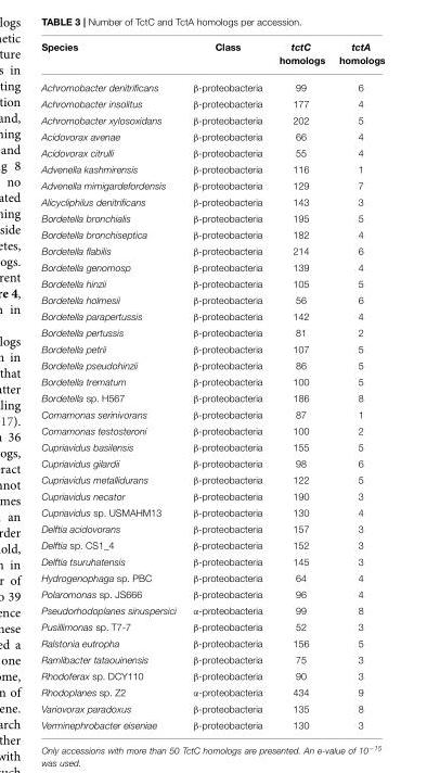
<table><thead><tr><td>Species</td><td>Class</td><td>tctC homologs</td><td>tctA homologs</td></tr></thead><tbody><tr><td>Achromobacter denitrificans</td><td>β-proteobacteria</td><td>99</td><td>6</td></tr><tr><td>Achromobacter insolitus</td><td>β-proteobacteria</td><td>177</td><td>4</td></tr><tr><td>Achromobacter xylosoxidans</td><td>β-proteobacteria</td><td>202</td><td>5</td></tr><tr><td>Acidovorax avenae</td><td>β-proteobacteria</td><td>66</td><td>4</td></tr><tr><td>Acidovorax citrulli</td><td>β-proteobacteria</td><td>55</td><td>4</td></tr><tr><td>Advenella kashmirensis</td><td>β-proteobacteria</td><td>116</td><td>1</td></tr><tr><td>Advenella mimigardefordensis</td><td>β-proteobacteria</td><td>129</td><td>7</td></tr><tr><td>Alicycliphilus denitrificans</td><td>β-proteobacteria</td><td>143</td><td>3</td></tr><tr><td>Bordetella bronchialis</td><td>β-proteobacteria</td><td>195</td><td>5</td></tr><tr><td>Bordetella bronchiseptica</td><td>β-proteobacteria</td><td>182</td><td>4</td></tr><tr><td>Bordetella flabilis</td><td>β-proteobacteria</td><td>214</td><td>6</td></tr><tr><td>Bordetella genomosp</td><td>β-proteobacteria</td><td>139</td><td>4</td></tr><tr><td>Bordetella hinzii</td><td>β-proteobacteria</td><td>105</td><td>5</td></tr><tr><td>Bordetella holmesii</td><td>β-proteobacteria</td><td>56</td><td>6</td></tr><tr><td>Bordetella parapertussis</td><td>β-proteobacteria</td><td>142</td><td>4</td></tr><tr><td>Bordetella pertussis</td><td>β-proteobacteria</td><td>81</td><td>2</td></tr><tr><td>Bordetella petrii</td><td>β-proteobacteria</td><td>107</td><td>5</td></tr><tr><td>Bordetella pseudohinzii</td><td>β-proteobacteria</td><td>86</td><td>5</td></tr><tr><td>Bordetella trematum</td><td>β-proteobacteria</td><td>100</td><td>5</td></tr><tr><td>Bordetella sp. H567</td><td>β-proteobacteria</td><td>186</td><td>8</td></tr><tr><td>Comamonas serinivorans</td><td>β-proteobacteria</td><td>87</td><td>1</td></tr><tr><td>Comamonas testosteroni</td><td>β-proteobacteria</td><td>100</td><td>2</td></tr><tr><td>Cupriavidus basilensis</td><td>β-proteobacteria</td><td>155</td><td>5</td></tr><tr><td>Cupriavidus gilardii</td><td>β-proteobacteria</td><td>98</td><td>6</td></tr><tr><td>Cupriavidus metallidurans</td><td>β-proteobacteria</td><td>122</td><td>5</td></tr><tr><td>Cupriavidus necator</td><td>β-proteobacteria</td><td>190</td><td>3</td></tr><tr><td>Cupriavidus sp. USMAHM13</td><td>β-proteobacteria</td><td>130</td><td>4</td></tr><tr><td>Delftia acidovorans</td><td>β-proteobacteria</td><td>157</td><td>3</td></tr><tr><td>Delftia sp. CS1_4</td><td>β-proteobacteria</td><td>152</td><td>3</td></tr><tr><td>Delftia tsuruhatensis</td><td>β-proteobacteria</td><td>145</td><td>3</td></tr><tr><td>Hydrogenophaga sp. PBC</td><td>β-proteobacteria</td><td>64</td><td>4</td></tr><tr><td>Polaromonas sp. JS666</td><td>β-proteobacteria</td><td>96</td><td>4</td></tr><tr><td>Pseudorhodoplanes sinuspersici</td><td>α-proteobacteria</td><td>99</td><td>8</td></tr><tr><td>Pusillimonas sp. T7-7</td><td>β-proteobacteria</td><td>52</td><td>3</td></tr><tr><td>Ralstonia eutropha</td><td>β-proteobacteria</td><td>156</td><td>5</td></tr><tr><td>Ramlibacter tataouinensis</td><td>β-proteobacteria</td><td>75</td><td>3</td></tr><tr><td>Rhodoferax sp. DCY110</td><td>β-proteobacteria</td><td>90</td><td>3</td></tr><tr><td>Rhodoplanes sp. Z2</td><td>α-proteobacteria</td><td>434</td><td>9</td></tr><tr><td>Variovorax paradoxus</td><td>β-proteobacteria</td><td>135</td><td>8</td></tr><tr><td>Verminephrobacter eiseniae</td><td>β-proteobacteria</td><td>130</td><td>3</td></tr></tbody></table>